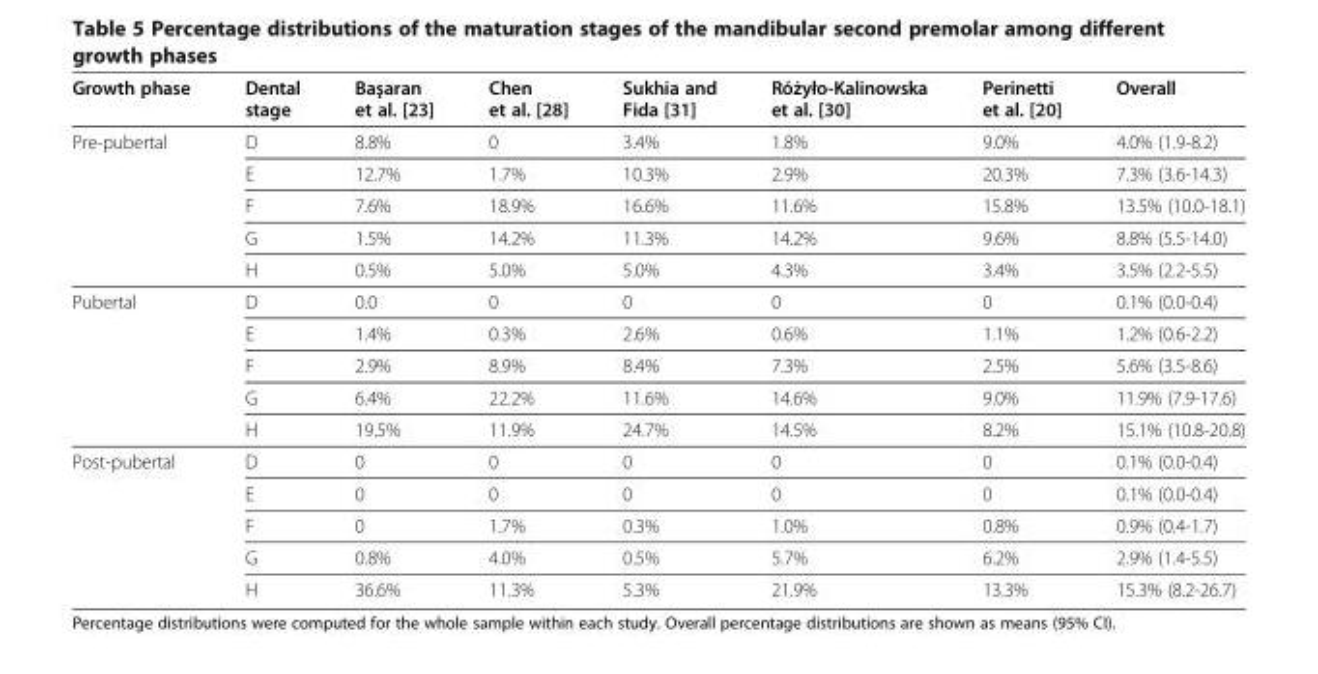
<table><thead><tr><td>Growth phase</td><td>Dental stage</td><td>Başaran et al. [23]</td><td>Chen et al. [28]</td><td>Sukhia and Fida [31]</td><td>Różyło-Kalinowska et al. [30]</td><td>Perinetti et al. [20]</td><td>Overall</td></tr></thead><tbody><tr><td rowspan="5">Pre-pubertal</td><td>D</td><td>8.8%</td><td>0</td><td>3.4%</td><td>1.8%</td><td>9.0%</td><td>4.0% (1.9-8.2)</td></tr><tr><td>E</td><td>12.7%</td><td>1.7%</td><td>10.3%</td><td>2.9%</td><td>20.3%</td><td>7.3% (3.6-14.3)</td></tr><tr><td>F</td><td>7.6%</td><td>18.9%</td><td>16.6%</td><td>11.6%</td><td>15.8%</td><td>13.5% (10.0-18.1)</td></tr><tr><td>G</td><td>1.5%</td><td>14.2%</td><td>11.3%</td><td>14.2%</td><td>9.6%</td><td>8.8% (5.5-14.0)</td></tr><tr><td>H</td><td>0.5%</td><td>5.0%</td><td>5.0%</td><td>4.3%</td><td>3.4%</td><td>3.5% (2.2-5.5)</td></tr><tr><td rowspan="5">Pubertal</td><td>D</td><td>0.0</td><td>0</td><td>0</td><td>0</td><td>0</td><td>0.1% (0.0-0.4)</td></tr><tr><td>E</td><td>1.4%</td><td>0.3%</td><td>2.6%</td><td>0.6%</td><td>1.1%</td><td>1.2% (0.6-2.2)</td></tr><tr><td>F</td><td>2.9%</td><td>8.9%</td><td>8.4%</td><td>7.3%</td><td>2.5%</td><td>5.6% (3.5-8.6)</td></tr><tr><td>G</td><td>6.4%</td><td>22.2%</td><td>11.6%</td><td>14.6%</td><td>9.0%</td><td>11.9% (7.9-17.6)</td></tr><tr><td>H</td><td>19.5%</td><td>11.9%</td><td>24.7%</td><td>14.5%</td><td>8.2%</td><td>15.1% (10.8-20.8)</td></tr><tr><td rowspan="5">Post-pubertal</td><td>D</td><td>0</td><td>0</td><td>0</td><td>0</td><td>0</td><td>0.1% (0.0-0.4)</td></tr><tr><td>E</td><td>0</td><td>0</td><td>0</td><td>0</td><td>0</td><td>0.1% (0.0-0.4)</td></tr><tr><td>F</td><td>0</td><td>1.7%</td><td>0.3%</td><td>1.0%</td><td>0.8%</td><td>0.9% (0.4-1.7)</td></tr><tr><td>G</td><td>0.8%</td><td>4.0%</td><td>0.5%</td><td>5.7%</td><td>6.2%</td><td>2.9% (1.4-5.5)</td></tr><tr><td>H</td><td>36.6%</td><td>11.3%</td><td>5.3%</td><td>21.9%</td><td>13.3%</td><td>15.3% (8.2-26.7)</td></tr></tbody></table>